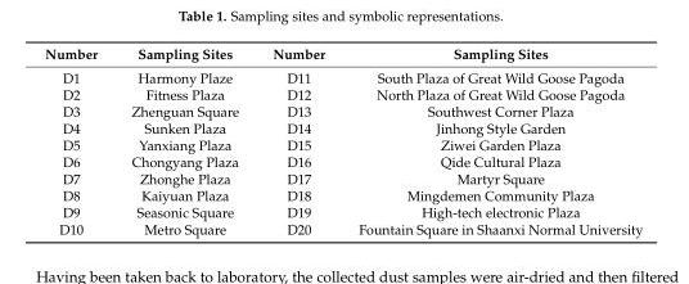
<table><thead><tr><td>Number</td><td>Sampling Sites</td><td>Number</td><td>Sampling Sites</td></tr></thead><tbody><tr><td>D1</td><td>Harmony Plaze</td><td>D11</td><td>South Plaza of Great Wild Goose Pagoda</td></tr><tr><td>D2</td><td>Fitness Plaza</td><td>D12</td><td>North Plaza of Great Wild Goose Pagoda</td></tr><tr><td>D3</td><td>Zhenguan Square</td><td>D13</td><td>Southwest Corner Plaza</td></tr><tr><td>D4</td><td>Sunken Plaza</td><td>D14</td><td>Jinhong Style Garden</td></tr><tr><td>D5</td><td>Yanxiang Plaza</td><td>D15</td><td>Ziwei Garden Plaza</td></tr><tr><td>D6</td><td>Chongyang Plaza</td><td>D16</td><td>Qide Cultural Plaza</td></tr><tr><td>D7</td><td>Zhonghe Plaza</td><td>D17</td><td>Martyr Square</td></tr><tr><td>D8</td><td>Kaiyuan Plaza</td><td>D18</td><td>Mingdemen Community Plaza</td></tr><tr><td>D9</td><td>Seasonic Square</td><td>D19</td><td>High-tech electronic Plaza</td></tr><tr><td>D10</td><td>Metro Square</td><td>D20</td><td>Fountain Square in Shaanxi Normal University</td></tr></tbody></table>